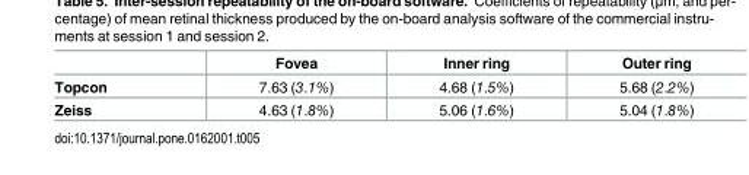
<table><thead><tr><td></td><td>Fovea</td><td>Inner ring</td><td>Outer ring</td></tr></thead><tbody><tr><td>Topcon</td><td>7.63 (3.1%)</td><td>4.68 (1.5%)</td><td>5.68 (2.2%)</td></tr><tr><td>Zeiss</td><td>4.63 (1.8%)</td><td>5.06 (1.6%)</td><td>5.04 (1.8%)</td></tr></tbody></table>